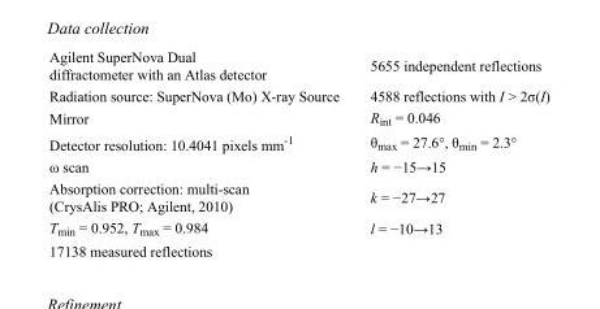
<table><tbody><tr><td>Agilent SuperNova Dual diffractometer with an Atlas detector</td><td>5655 independent reflections</td></tr><tr><td>Radiation source: SuperNova (Mo) X-ray Source</td><td>4588 reflections with I &gt; 2σ(I)</td></tr><tr><td>Mirror</td><td>R<sub>int</sub> = 0.046</td></tr><tr><td>Detector resolution: 10.4041 pixels mm<sup>-1</sup></td><td>θ<sub>max</sub> = 27.6°, θ<sub>min</sub> = 2.3°</td></tr><tr><td>ω scan</td><td>h = −15→15</td></tr><tr><td>Absorption correction: multi-scan (CrysAlis PRO; Agilent, 2010)</td><td>k = −27→27</td></tr><tr><td>T<sub>min</sub> = 0.952, T<sub>max</sub> = 0.984</td><td>l = −10→13</td></tr><tr><td>17138 measured reflections</td><td></td></tr></tbody></table>